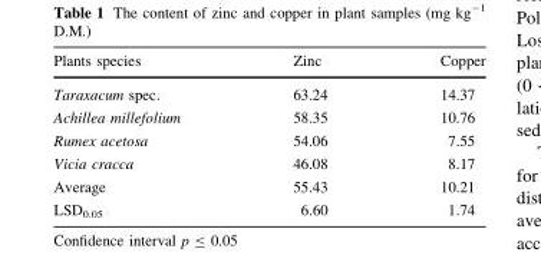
<table><thead><tr><td>Plants species</td><td>Zinc</td><td>Copper</td></tr></thead><tbody><tr><td>Taraxacum spec.</td><td>63.24</td><td>14.37</td></tr><tr><td>Achillea millefolium</td><td>58.35</td><td>10.76</td></tr><tr><td>Rumex acetosa</td><td>54.06</td><td>7.55</td></tr><tr><td>Vicia cracca</td><td>46.08</td><td>8.17</td></tr><tr><td>Average</td><td>55.43</td><td>10.21</td></tr><tr><td>LSD<sub>0.05</sub></td><td>6.60</td><td>1.74</td></tr></tbody></table>